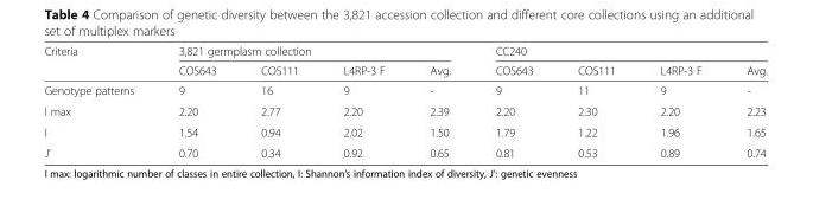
<table><thead><tr><td rowspan="2">Criteria</td><td colspan="4">3,821 germplasm collection</td><td colspan="4">CC240</td></tr><tr><td>COS643</td><td>COS111</td><td>L4RP-3 F</td><td>Avg.</td><td>COS643</td><td>COS111</td><td>L4RP-3 F</td><td>Avg.</td></tr></thead><tbody><tr><td>Genotype patterns</td><td>9</td><td>16</td><td>9</td><td>-</td><td>9</td><td>11</td><td>9</td><td>-</td></tr><tr><td>I max</td><td>2.20</td><td>2.77</td><td>2.20</td><td>2.39</td><td>2.20</td><td>2.30</td><td>2.20</td><td>2.23</td></tr><tr><td>I</td><td>1.54</td><td>0.94</td><td>2.02</td><td>1.50</td><td>1.79</td><td>1.22</td><td>1.96</td><td>1.65</td></tr><tr><td>J’</td><td>0.70</td><td>0.34</td><td>0.92</td><td>0.65</td><td>0.81</td><td>0.53</td><td>0.89</td><td>0.74</td></tr></tbody></table>